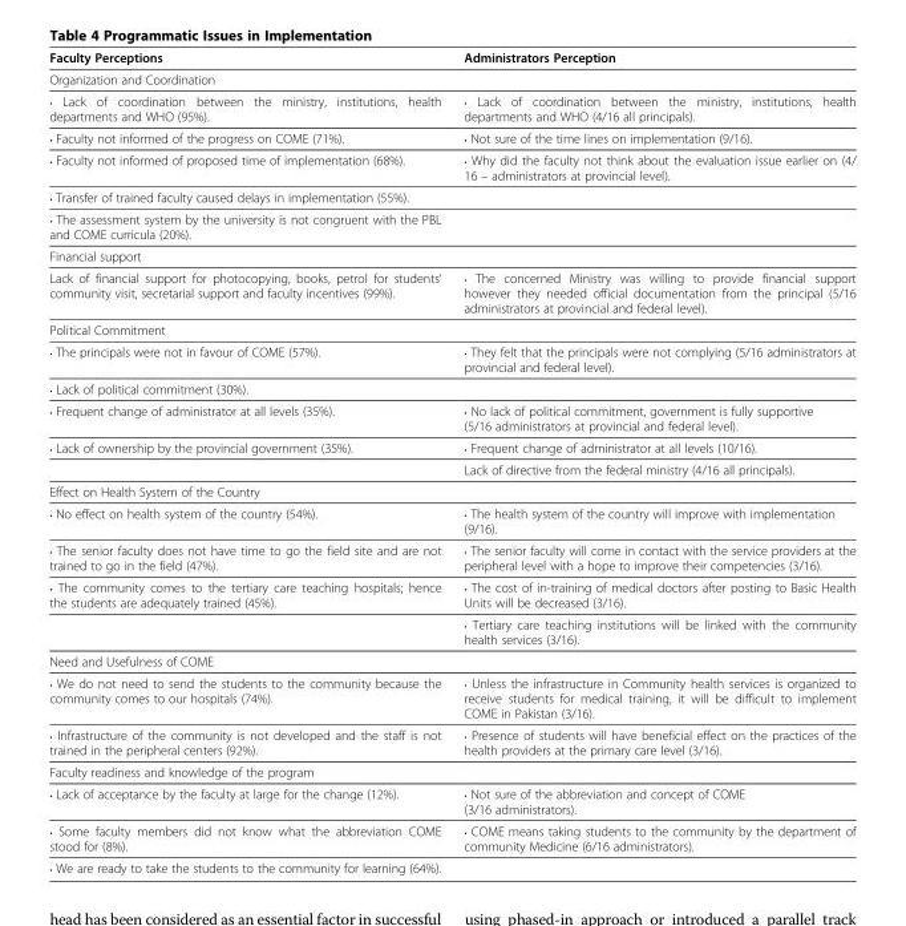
<table><thead><tr><td>Faculty Perceptions</td><td>Administrators Perception</td></tr></thead><tbody><tr><td colspan="2">Organization and Coordination</td></tr><tr><td>• Lack of coordination between the ministry, institutions, health departments and WHO (95%).</td><td>• Lack of coordination between the ministry, institutions, health departments and WHO (4/16 all principals).</td></tr><tr><td>• Faculty not informed of the progress on COME (71%).</td><td>• Not sure of the time lines on implementation (9/16).</td></tr><tr><td>• Faculty not informed of proposed time of implementation (68%).</td><td>• Why did the faculty not think about the evaluation issue earlier on (4/ 16 – administrators at provincial level).</td></tr><tr><td colspan="2">• Transfer of trained faculty caused delays in implementation (55%).</td></tr><tr><td colspan="2">• The assessment system by the university is not congruent with the PBL and COME curricula (20%).</td></tr><tr><td colspan="2">Financial support</td></tr><tr><td>Lack of financial support for photocopying, books, petrol for students’ community visit, secretarial support and faculty incentives (99%).</td><td>• The concerned Ministry was willing to provide financial support however they needed official documentation from the principal (5/16 administrators at provincial and federal level).</td></tr><tr><td colspan="2">Political Commitment</td></tr><tr><td>• The principals were not in favour of COME (57%).</td><td>• They felt that the principals were not complying (5/16 administrators at provincial and federal level).</td></tr><tr><td colspan="2">• Lack of political commitment (30%).</td></tr><tr><td>• Frequent change of administrator at all levels (35%).</td><td>• No lack of political commitment, government is fully supportive (5/16 administrators at provincial and federal level).</td></tr><tr><td rowspan="2">• Lack of ownership by the provincial government (35%).</td><td>• Frequent change of administrator at all levels (10/16).</td></tr><tr><td>Lack of directive from the federal ministry (4/16 all principals).</td></tr><tr><td colspan="2">Effect on Health System of the Country</td></tr><tr><td>• No effect on health system of the country (54%).</td><td>• The health system of the country will improve with implementation (9/16).</td></tr><tr><td>• The senior faculty does not have time to go the field site and are not trained to go in the field (47%).</td><td>• The senior faculty will come in contact with the service providers at the peripheral level with a hope to improve their competencies (3/16).</td></tr><tr><td rowspan="2">• The community comes to the tertiary care teaching hospitals; hence the students are adequately trained (45%).</td><td>• The cost of in-training of medical doctors after posting to Basic Health Units will be decreased (3/16).</td></tr><tr><td>• Tertiary care teaching institutions will be linked with the community health services (3/16).</td></tr><tr><td colspan="2">Need and Usefulness of COME</td></tr><tr><td>• We do not need to send the students to the community because the community comes to our hospitals (74%).</td><td>• Unless the infrastructure in Community health services is organized to receive students for medical training, it will be difficult to implement COME in Pakistan (3/16).</td></tr><tr><td>• Infrastructure of the community is not developed and the staff is not trained in the peripheral centers (92%).</td><td>• Presence of students will have beneficial effect on the practices of the health providers at the primary care level (3/16).</td></tr><tr><td colspan="2">Faculty readiness and knowledge of the program</td></tr><tr><td>• Lack of acceptance by the faculty at large for the change (12%).</td><td>• Not sure of the abbreviation and concept of COME (3/16 administrators).</td></tr><tr><td>• Some faculty members did not know what the abbreviation COME stood for (8%).</td><td>• COME means taking students to the community by the department of community Medicine (6/16 administrators).</td></tr><tr><td>• We are ready to take the students to the community for learning (64%).</td><td></td></tr></tbody></table>